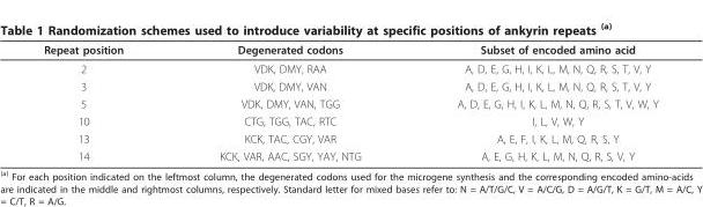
<table><thead><tr><td>Repeat position</td><td>Degenerated codons</td><td>Subset of encoded amino acid</td></tr></thead><tbody><tr><td>2</td><td>VDK, DMY, RAA</td><td>A, D, E, G, H, I, K, L, M, N, Q, R, S, T, V, Y</td></tr><tr><td>3</td><td>VDK, DMY, VAN</td><td>A, D, E, G, H, I, K, L, M, N, Q, R, S, T, V, Y</td></tr><tr><td>5</td><td>VDK, DMY, VAN, TGG</td><td>A, D, E, G, H, I, K, L, M, N, Q, R, S, T, V, W, Y</td></tr><tr><td>10</td><td>CTG, TGG, TAC, RTC</td><td>I, L, V, W, Y</td></tr><tr><td>13</td><td>KCK, TAC, CGY, VAR</td><td>A, E, F, I, K, L, M, Q, R, S, Y</td></tr><tr><td>14</td><td>KCK, VAR, AAC, SGY, YAY, NTG</td><td>A, E, G, H, K, L, M, N, Q, R, S, V, Y</td></tr></tbody></table>